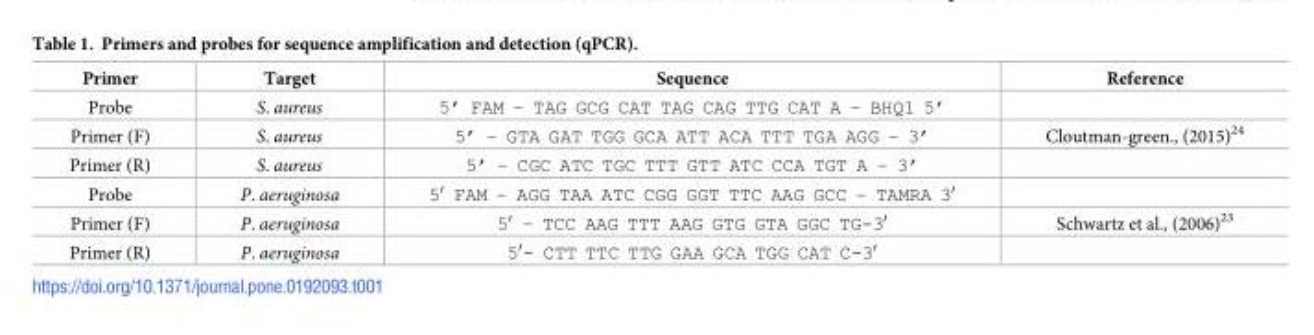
<table><thead><tr><td>Primer</td><td>Target</td><td>Sequence</td><td>Reference</td></tr></thead><tbody><tr><td>Probe</td><td>S. aureus</td><td>5’ FAM – TAG GCG CAT TAG CAG TTG CAT A – BHQ1 5’</td><td></td></tr><tr><td>Primer (F)</td><td>S. aureus</td><td>5’ – GTA GAT TGG GCA ATT ACA TTT TGA AGG – 3’</td><td>Cloutman-green., (2015)<sup>24</sup></td></tr><tr><td>Primer (R)</td><td>S. aureus</td><td>5’ – CGC ATC TGC TTT GTT ATC CCA TGT A – 3’</td><td></td></tr><tr><td>Probe</td><td>P. aeruginosa</td><td>5′ FAM – AGG TAA ATC CGG GGT TTC AAG GCC – TAMRA 3′</td><td></td></tr><tr><td>Primer (F)</td><td>P. aeruginosa</td><td>5′ – TCC AAG TTT AAG GTG GTA GGC TG-3′</td><td>Schwartz et al., (2006)<sup>23</sup></td></tr><tr><td>Primer (R)</td><td>P. aeruginosa</td><td>5′- CTT TTC TTG GAA GCA TGG CAT C-3′</td><td></td></tr></tbody></table>